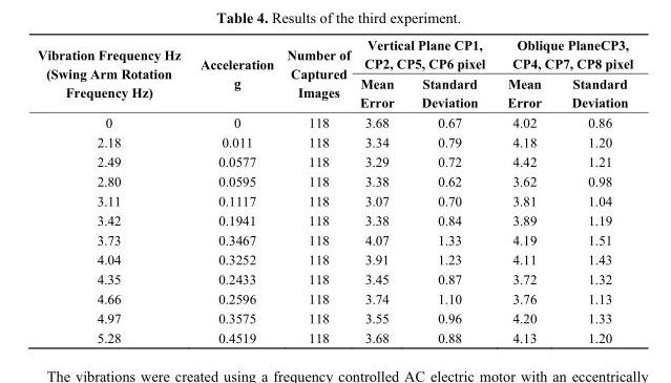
<table><thead><tr><td rowspan="2">Vibration Frequency Hz (Swing Arm Rotation Frequency Hz)</td><td rowspan="2">Acceleration g</td><td rowspan="2">Number of Captured Images</td><td colspan="2">Vertical Plane CP1, CP2, CP5, CP6 pixel</td><td colspan="2">Oblique PlaneCP3, CP4, CP7, CP8 pixel</td></tr><tr><td>Mean Error</td><td>Standard Deviation</td><td>Mean Error</td><td>Standard Deviation</td></tr></thead><tbody><tr><td>0</td><td>0</td><td>118</td><td>3.68</td><td>0.67</td><td>4.02</td><td>0.86</td></tr><tr><td>2.18</td><td>0.011</td><td>118</td><td>3.34</td><td>0.79</td><td>4.18</td><td>1.20</td></tr><tr><td>2.49</td><td>0.0577</td><td>118</td><td>3.29</td><td>0.72</td><td>4.42</td><td>1.21</td></tr><tr><td>2.80</td><td>0.0595</td><td>118</td><td>3.38</td><td>0.62</td><td>3.62</td><td>0.98</td></tr><tr><td>3.11</td><td>0.1117</td><td>118</td><td>3.07</td><td>0.70</td><td>3.81</td><td>1.04</td></tr><tr><td>3.42</td><td>0.1941</td><td>118</td><td>3.38</td><td>0.84</td><td>3.89</td><td>1.19</td></tr><tr><td>3.73</td><td>0.3467</td><td>118</td><td>4.07</td><td>1.33</td><td>4.19</td><td>1.51</td></tr><tr><td>4.04</td><td>0.3252</td><td>118</td><td>3.91</td><td>1.23</td><td>4.11</td><td>1.43</td></tr><tr><td>4.35</td><td>0.2433</td><td>118</td><td>3.45</td><td>0.87</td><td>3.72</td><td>1.32</td></tr><tr><td>4.66</td><td>0.2596</td><td>118</td><td>3.74</td><td>1.10</td><td>3.76</td><td>1.13</td></tr><tr><td>4.97</td><td>0.3575</td><td>118</td><td>3.55</td><td>0.96</td><td>4.20</td><td>1.33</td></tr><tr><td>5.28</td><td>0.4519</td><td>118</td><td>3.68</td><td>0.88</td><td>4.13</td><td>1.20</td></tr></tbody></table>